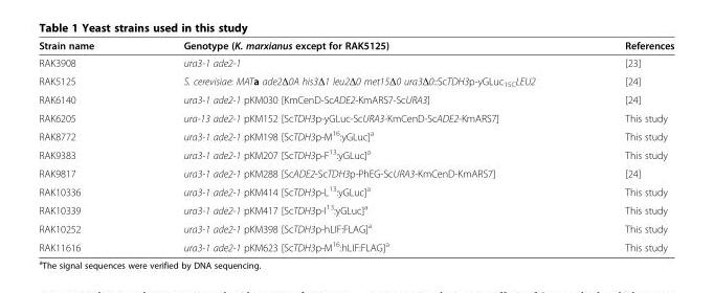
<table><thead><tr><td>Strain name</td><td>Genotype (K. marxianus except for RAK5125)</td><td>References</td></tr></thead><tbody><tr><td>RAK3908</td><td>ura3-1 ade2-1</td><td>[23]</td></tr><tr><td>RAK5125</td><td>S. cerevisiae: MATa ade2Δ0A his3Δ1 leu2Δ0 met15Δ0 ura3Δ0::ScTDH3p-yGLuc<sub>15C</sub>LEU2</td><td>[24]</td></tr><tr><td>RAK6140</td><td>ura3-1 ade2-1 pKM030 [KmCenD-ScADE2-KmARS7-ScURA3]</td><td>[24]</td></tr><tr><td>RAK6205</td><td>ura-13 ade2-1 pKM152 [ScTDH3p-yGLuc-ScURA3-KmCenD-ScADE2-KmARS7]</td><td>This study</td></tr><tr><td>RAK8772</td><td>ura3-1 ade2-1 pKM198 [ScTDH3p-M<sup>16</sup>:yGLuc]<sup>a</sup></td><td>This study</td></tr><tr><td>RAK9383</td><td>ura3-1 ade2-1 pKM207 [ScTDH3p-F<sup>13</sup>:yGLuc]<sup>a</sup></td><td>This study</td></tr><tr><td>RAK9817</td><td>ura3-1 ade2-1 pKM288 [ScADE2-ScTDH3p-PhEG-ScURA3-KmCenD-KmARS7]</td><td>[24]</td></tr><tr><td>RAK10336</td><td>ura3-1 ade2-1 pKM414 [ScTDH3p-L<sup>13</sup>:yGLuc]<sup>a</sup></td><td>This study</td></tr><tr><td>RAK10339</td><td>ura3-1 ade2-1 pKM417 [ScTDH3p-I<sup>13</sup>:yGLuc]<sup>a</sup></td><td>This study</td></tr><tr><td>RAK10252</td><td>ura3-1 ade2-1 pKM398 [ScTDH3p-hLIF:FLAG]<sup>a</sup></td><td>This study</td></tr><tr><td>RAK11616</td><td>ura3-1 ade2-1 pKM623 [ScTDH3p-M<sup>16</sup>:hLIF:FLAG]<sup>a</sup></td><td>This study</td></tr></tbody></table>